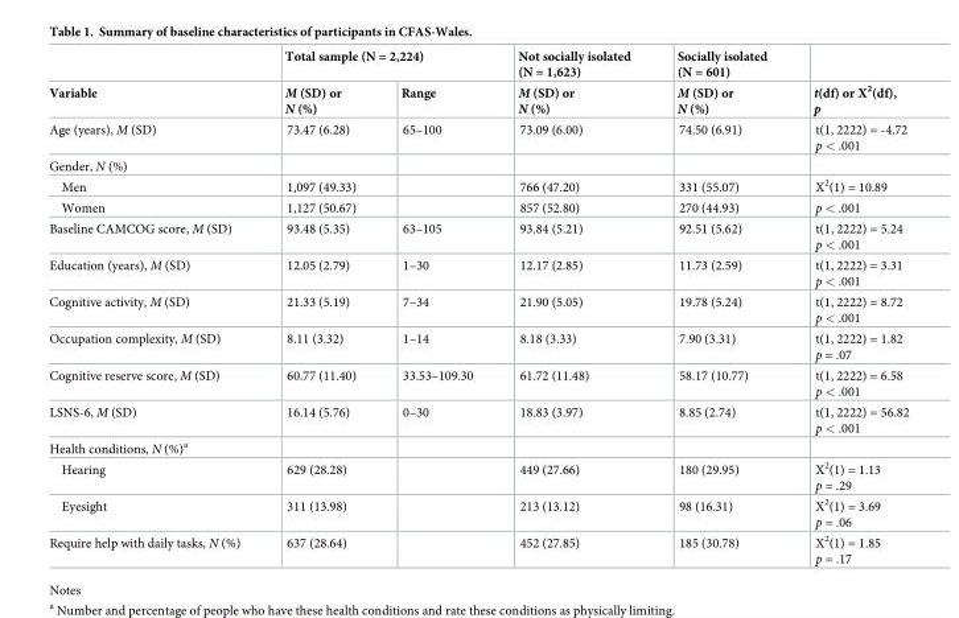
<table><thead><tr><td rowspan="2">Variable</td><td colspan="2">Total sample (N = 2,224)</td><td rowspan="2">Not socially isolated (N = 1,623) M (SD) or N (%)</td><td rowspan="2">Socially isolated (N = 601) M (SD) or N (%)</td><td rowspan="2">t(df) or X<sup>2</sup>(df), p</td></tr><tr><td>M (SD) or N (%)</td><td>Range</td></tr></thead><tbody><tr><td>Age (years), M (SD)</td><td>73.47 (6.28)</td><td>65–100</td><td>73.09 (6.00)</td><td>74.50 (6.91)</td><td>t(1, 2222) = -4.72 p &lt; .001</td></tr><tr><td colspan="6">Gender, N (%)</td></tr><tr><td>Men</td><td>1,097 (49.33)</td><td></td><td>766 (47.20)</td><td>331 (55.07)</td><td>X<sup>2</sup>(1) = 10.89</td></tr><tr><td>Women</td><td>1,127 (50.67)</td><td></td><td>857 (52.80)</td><td>270 (44.93)</td><td>p &lt; .001</td></tr><tr><td>Baseline CAMCOG score, M (SD)</td><td>93.48 (5.35)</td><td>63–105</td><td>93.84 (5.21)</td><td>92.51 (5.62)</td><td>t(1, 2222) = 5.24 p &lt; .001</td></tr><tr><td>Education (years), M (SD)</td><td>12.05 (2.79)</td><td>1–30</td><td>12.17 (2.85)</td><td>11.73 (2.59)</td><td>t(1, 2222) = 3.31 p &lt; .001</td></tr><tr><td>Cognitive activity, M (SD)</td><td>21.33 (5.19)</td><td>7–34</td><td>21.90 (5.05)</td><td>19.78 (5.24)</td><td>t(1, 2222) = 8.72 p &lt; .001</td></tr><tr><td>Occupation complexity, M (SD)</td><td>8.11 (3.32)</td><td>1–14</td><td>8.18 (3.33)</td><td>7.90 (3.31)</td><td>t(1, 2222) = 1.82 p = .07</td></tr><tr><td>Cognitive reserve score, M (SD)</td><td>60.77 (11.40)</td><td>33.53–109.30</td><td>61.72 (11.48)</td><td>58.17 (10.77)</td><td>t(1, 2222) = 6.58 p &lt; .001</td></tr><tr><td>LSNS-6, M (SD)</td><td>16.14 (5.76)</td><td>0–30</td><td>18.83 (3.97)</td><td>8.85 (2.74)</td><td>t(1, 2222) = 56.82 p &lt; .001</td></tr><tr><td colspan="6">Health conditions, N (%)<sup>a</sup></td></tr><tr><td>Hearing</td><td>629 (28.28)</td><td></td><td>449 (27.66)</td><td>180 (29.95)</td><td>X<sup>2</sup>(1) = 1.13 p = .29</td></tr><tr><td>Eyesight</td><td>311 (13.98)</td><td></td><td>213 (13.12)</td><td>98 (16.31)</td><td>X<sup>2</sup>(1) = 3.69 p = .06</td></tr><tr><td>Require help with daily tasks, N (%)</td><td>637 (28.64)</td><td></td><td>452 (27.85)</td><td>185 (30.78)</td><td>X<sup>2</sup>(1) = 1.85 p = .17</td></tr></tbody></table>